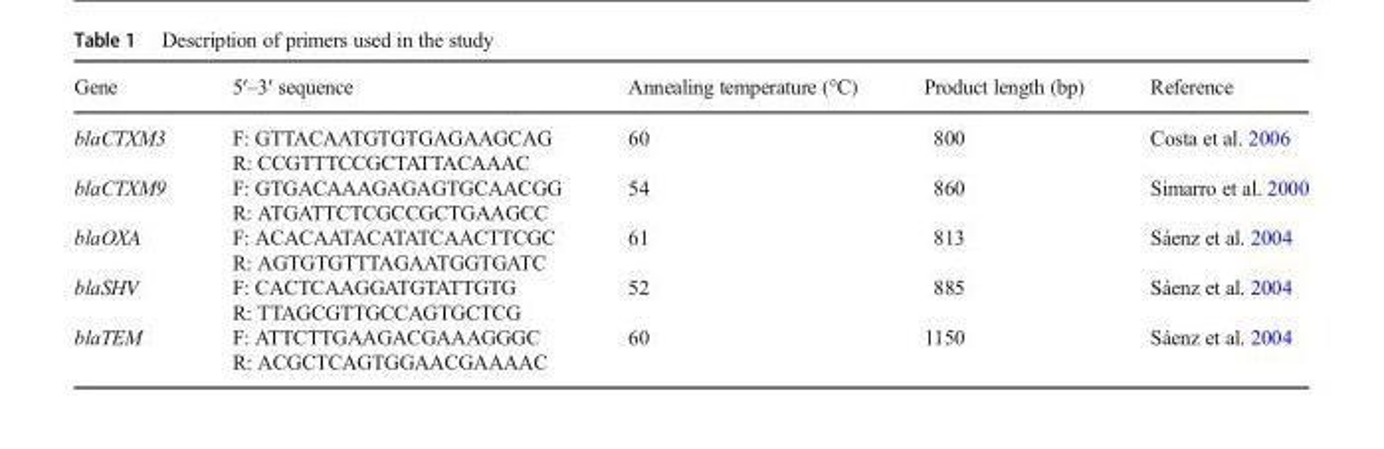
<table><thead><tr><td>Gene</td><td>5′–3′ sequence</td><td>Annealing temperature (°C)</td><td>Product length (bp)</td><td>Reference</td></tr></thead><tbody><tr><td>blaCTXM3</td><td>F: GTTACAATGTGTGAGAAGCAG R: CCGTTTCCGCTATTACAAAC</td><td>60</td><td>800</td><td>Costa et al. 2006</td></tr><tr><td>blaCTXM9</td><td>F: GTGACAAAGAGAGTGCAACGG R: ATGATTCTCGCCGCTGAAGCC</td><td>54</td><td>860</td><td>Simarro et al. 2000</td></tr><tr><td>blaOXA</td><td>F: ACACAATACATATCAACTTCGC R: AGTGTGTTTAGAATGGTGATC</td><td>61</td><td>813</td><td>Sáenz et al. 2004</td></tr><tr><td>blaSHV</td><td>F: CACTCAAGGATGTATTGTG R: TTAGCGTTGCCAGTGCTCG</td><td>52</td><td>885</td><td>Sáenz et al. 2004</td></tr><tr><td>blaTEM</td><td>F: ATTCTTGAAGACGAAAGGGC R: ACGCTCAGTGGAACGAAAAC</td><td>60</td><td>1150</td><td>Sáenz et al. 2004</td></tr></tbody></table>